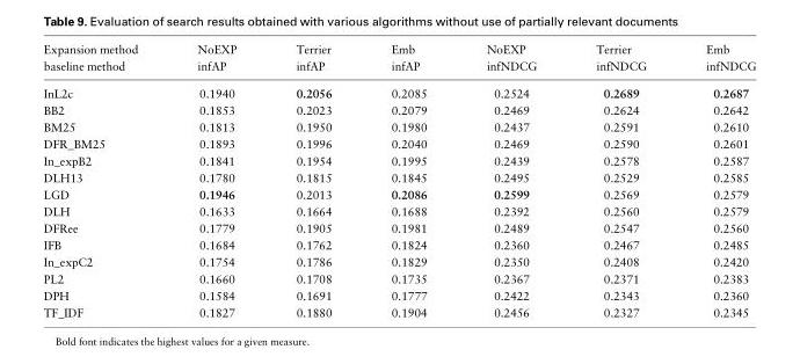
<table><thead><tr><td rowspan="2">Expansion method baseline method</td><td rowspan="2">NoEXP infAP</td><td rowspan="2">Terrier infAP</td><td rowspan="2">Emb infAP</td><td rowspan="2">NoEXP infNDCG</td><td rowspan="2">Terrier infNDCG</td><td rowspan="2">Emb infNDCG</td></tr><tr></tr></thead><tbody><tr><td>InL2c</td><td>0.1940</td><td>0.2056</td><td>0.2085</td><td>0.2524</td><td>0.2689</td><td>0.2687</td></tr><tr><td>BB2</td><td>0.1853</td><td>0.2023</td><td>0.2079</td><td>0.2469</td><td>0.2624</td><td>0.2642</td></tr><tr><td>BM25</td><td>0.1813</td><td>0.1950</td><td>0.1980</td><td>0.2437</td><td>0.2591</td><td>0.2610</td></tr><tr><td>DFR_BM25</td><td>0.1893</td><td>0.1996</td><td>0.2040</td><td>0.2469</td><td>0.2590</td><td>0.2601</td></tr><tr><td>In_expB2</td><td>0.1841</td><td>0.1954</td><td>0.1995</td><td>0.2439</td><td>0.2578</td><td>0.2587</td></tr><tr><td>DLH13</td><td>0.1780</td><td>0.1815</td><td>0.1845</td><td>0.2495</td><td>0.2529</td><td>0.2585</td></tr><tr><td>LGD</td><td>0.1946</td><td>0.2013</td><td>0.2086</td><td>0.2599</td><td>0.2569</td><td>0.2579</td></tr><tr><td>DLH</td><td>0.1633</td><td>0.1664</td><td>0.1688</td><td>0.2392</td><td>0.2560</td><td>0.2579</td></tr><tr><td>DFRee</td><td>0.1779</td><td>0.1905</td><td>0.1981</td><td>0.2489</td><td>0.2547</td><td>0.2560</td></tr><tr><td>IFB</td><td>0.1684</td><td>0.1762</td><td>0.1824</td><td>0.2360</td><td>0.2467</td><td>0.2485</td></tr><tr><td>In_expC2</td><td>0.1754</td><td>0.1786</td><td>0.1829</td><td>0.2350</td><td>0.2408</td><td>0.2420</td></tr><tr><td>PL2</td><td>0.1660</td><td>0.1708</td><td>0.1735</td><td>0.2367</td><td>0.2371</td><td>0.2383</td></tr><tr><td>DPH</td><td>0.1584</td><td>0.1691</td><td>0.1777</td><td>0.2422</td><td>0.2343</td><td>0.2360</td></tr><tr><td>TF_IDF</td><td>0.1827</td><td>0.1880</td><td>0.1904</td><td>0.2456</td><td>0.2327</td><td>0.2345</td></tr></tbody></table>